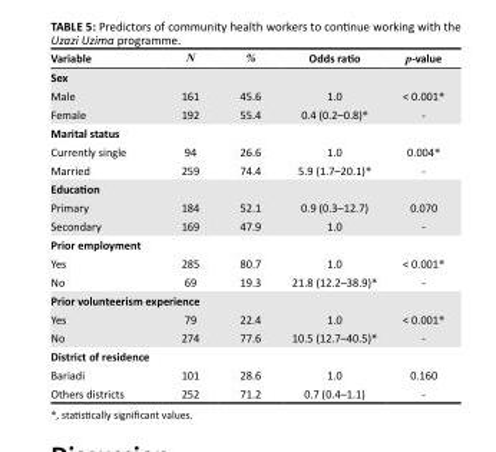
<table><thead><tr><td>Variable</td><td>N</td><td>%</td><td>Odds ratio</td><td>p-value</td></tr></thead><tbody><tr><td colspan="5">Sex</td></tr><tr><td>Male</td><td>161</td><td>45.6</td><td>1.0</td><td>&lt; 0.001*</td></tr><tr><td>Female</td><td>192</td><td>55.4</td><td>0.4 (0.2–0.8)*</td><td>-</td></tr><tr><td colspan="5">Marital status</td></tr><tr><td>Currently single</td><td>94</td><td>26.6</td><td>1.0</td><td>0.004*</td></tr><tr><td>Married</td><td>259</td><td>74.4</td><td>5.9 (1.7–20.1)*</td><td>-</td></tr><tr><td colspan="5">Education</td></tr><tr><td>Primary</td><td>184</td><td>52.1</td><td>0.9 (0.3–12.7)</td><td>0.070</td></tr><tr><td>Secondary</td><td>169</td><td>47.9</td><td>1.0</td><td>-</td></tr><tr><td colspan="5">Prior employment</td></tr><tr><td>Yes</td><td>285</td><td>80.7</td><td>1.0</td><td>&lt; 0.001*</td></tr><tr><td>No</td><td>69</td><td>19.3</td><td>21.8 (12.2–38.9)*</td><td>-</td></tr><tr><td colspan="5">Prior volunteerism experience</td></tr><tr><td>Yes</td><td>79</td><td>22.4</td><td>1.0</td><td>&lt; 0.001*</td></tr><tr><td>No</td><td>274</td><td>77.6</td><td>10.5 (12.7–40.5)*</td><td>-</td></tr><tr><td colspan="5">District of residence</td></tr><tr><td>Bariadi</td><td>101</td><td>28.6</td><td>1.0</td><td>0.160</td></tr><tr><td>Others districts</td><td>252</td><td>71.2</td><td>0.7 (0.4–1.1)</td><td>-</td></tr></tbody></table>